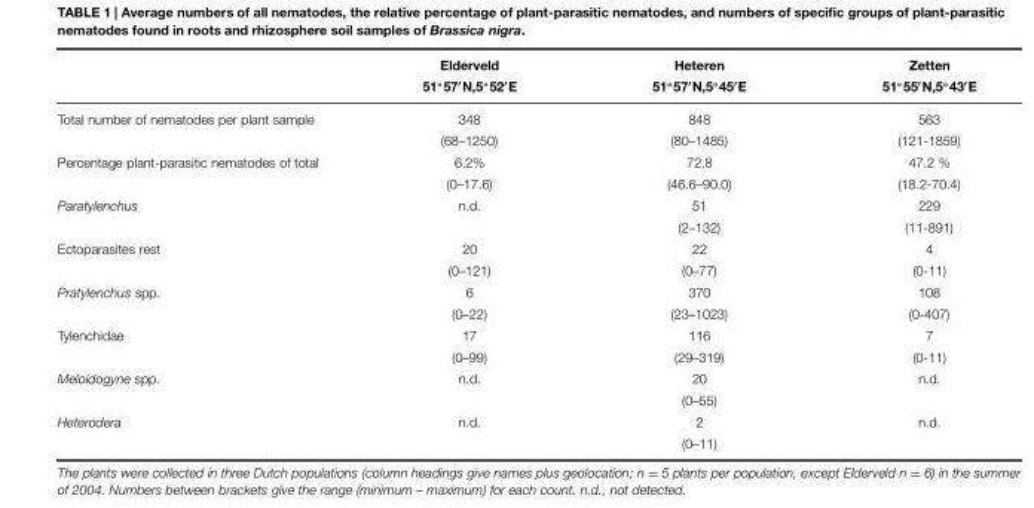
<table><thead><tr><td rowspan="2"></td><td rowspan="2">Elderveld 51◦57′N,5◦52′E</td><td rowspan="2">Heteren 51◦57′N,5◦45′E</td><td rowspan="2">Zetten 51◦55′N,5◦43′E</td></tr><tr></tr></thead><tbody><tr><td rowspan="2">Total number of nematodes per plant sample</td><td>348</td><td>848</td><td>563</td></tr><tr><td>(68–1250)</td><td>(80–1485)</td><td>(121-1859)</td></tr><tr><td rowspan="2">Percentage plant-parasitic nematodes of total</td><td>6.2%</td><td>72.8</td><td>47.2 %</td></tr><tr><td>(0–17.6)</td><td>(46.6–90.0)</td><td>(18.2-70.4)</td></tr><tr><td rowspan="2">Paratylenchus</td><td>n.d.</td><td>51</td><td>229</td></tr><tr><td></td><td>(2–132)</td><td>(11-891)</td></tr><tr><td rowspan="2">Ectoparasites rest</td><td>20</td><td>22</td><td>4</td></tr><tr><td>(0–121)</td><td>(0–77)</td><td>(0-11)</td></tr><tr><td rowspan="2">Pratylenchus spp.</td><td>6</td><td>370</td><td>108</td></tr><tr><td>(0–22)</td><td>(23–1023)</td><td>(0-407)</td></tr><tr><td rowspan="2">Tylenchidae</td><td>17</td><td>116</td><td>7</td></tr><tr><td>(0–99)</td><td>(29–319)</td><td>(0-11)</td></tr><tr><td rowspan="2">Meloidogyne spp.</td><td>n.d.</td><td>20</td><td>n.d.</td></tr><tr><td></td><td>(0–55)</td><td></td></tr><tr><td rowspan="2">Heterodera</td><td>n.d.</td><td>2</td><td>n.d.</td></tr><tr><td></td><td>(0–11)</td><td></td></tr></tbody></table>